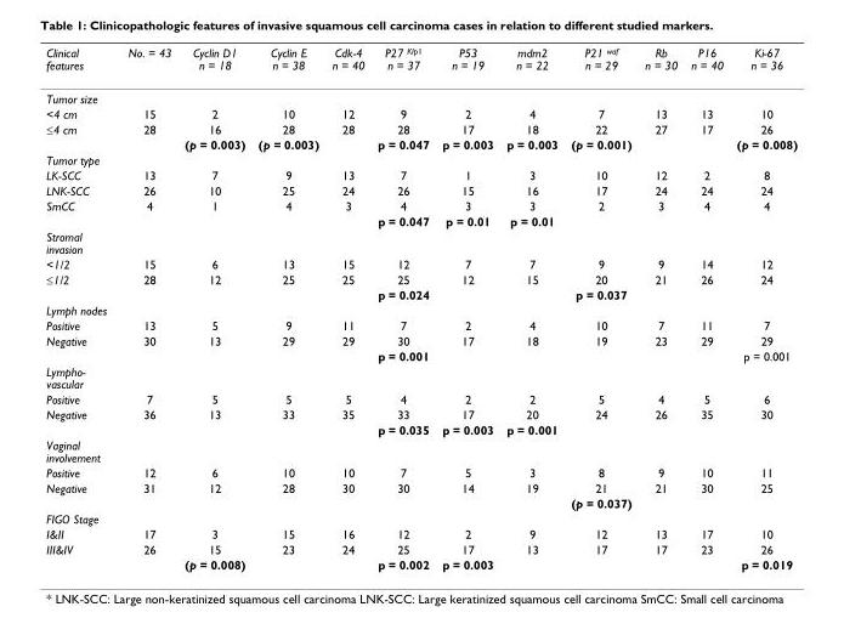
<table><thead><tr><td>Clinical features</td><td>No. = 43</td><td>Cyclin D1 n = 18</td><td>Cyclin E n = 38</td><td>Cdk-4 n = 40</td><td>P27 KIp1 n = 37</td><td>P53 n = 19</td><td>mdm2 n = 22</td><td>P21 waf n = 29</td><td>Rb n = 30</td><td>P16 n = 40</td><td>Ki-67 n = 36</td></tr></thead><tbody><tr><td colspan="12">Tumor size</td></tr><tr><td>&lt;4 cm</td><td>15</td><td>2</td><td>10</td><td>12</td><td>9</td><td>2</td><td>4</td><td>7</td><td>13</td><td>13</td><td>10</td></tr><tr><td rowspan="2">≤4 cm</td><td>28</td><td>16</td><td>28</td><td>28</td><td>28</td><td>17</td><td>18</td><td>22</td><td>27</td><td>17</td><td>26</td></tr><tr><td></td><td>(p = 0.003)</td><td>(p = 0.003)</td><td></td><td>p = 0.047</td><td>p = 0.003</td><td>p = 0.003</td><td>(p = 0.001)</td><td></td><td></td><td>(p = 0.008)</td></tr><tr><td colspan="12">Tumor type</td></tr><tr><td>LK-SCC</td><td>13</td><td>7</td><td>9</td><td>13</td><td>7</td><td>1</td><td>3</td><td>10</td><td>12</td><td>2</td><td>8</td></tr><tr><td>LNK-SCC</td><td>26</td><td>10</td><td>25</td><td>24</td><td>26</td><td>15</td><td>16</td><td>17</td><td>24</td><td>24</td><td>24</td></tr><tr><td rowspan="2">SmCC</td><td>4</td><td>1</td><td>4</td><td>3</td><td>4</td><td>3</td><td>3</td><td>2</td><td>3</td><td>4</td><td>4</td></tr><tr><td></td><td></td><td></td><td></td><td>p = 0.047</td><td>p = 0.01</td><td>p = 0.01</td><td></td><td></td><td></td><td></td></tr><tr><td colspan="12">Stromal invasion</td></tr><tr><td>&lt;1/2</td><td>15</td><td>6</td><td>13</td><td>15</td><td>12</td><td>7</td><td>7</td><td>9</td><td>9</td><td>14</td><td>12</td></tr><tr><td rowspan="2">≤1/2</td><td>28</td><td>12</td><td>25</td><td>25</td><td>25</td><td>12</td><td>15</td><td>20</td><td>21</td><td>26</td><td>24</td></tr><tr><td></td><td></td><td></td><td></td><td>p = 0.024</td><td></td><td></td><td>p = 0.037</td><td></td><td></td><td></td></tr><tr><td colspan="12">Lymph nodes</td></tr><tr><td>Positive</td><td>13</td><td>5</td><td>9</td><td>11</td><td>7</td><td>2</td><td>4</td><td>10</td><td>7</td><td>11</td><td>7</td></tr><tr><td rowspan="2">Negative</td><td>30</td><td>13</td><td>29</td><td>29</td><td>30</td><td>17</td><td>18</td><td>19</td><td>23</td><td>29</td><td>29</td></tr><tr><td></td><td></td><td></td><td></td><td>p = 0.001</td><td></td><td></td><td></td><td></td><td></td><td>p = 0.001</td></tr><tr><td colspan="12">Lympho- vascular</td></tr><tr><td>Positive</td><td>7</td><td>5</td><td>5</td><td>5</td><td>4</td><td>2</td><td>2</td><td>5</td><td>4</td><td>5</td><td>6</td></tr><tr><td rowspan="2">Negative</td><td>36</td><td>13</td><td>33</td><td>35</td><td>33</td><td>17</td><td>20</td><td>24</td><td>26</td><td>35</td><td>30</td></tr><tr><td></td><td></td><td></td><td></td><td>p = 0.035</td><td>p = 0.003</td><td>p = 0.001</td><td></td><td></td><td></td><td></td></tr><tr><td colspan="12">Vaginal involvement</td></tr><tr><td>Positive</td><td>12</td><td>6</td><td>10</td><td>10</td><td>7</td><td>5</td><td>3</td><td>8</td><td>9</td><td>10</td><td>11</td></tr><tr><td rowspan="2">Negative</td><td>31</td><td>12</td><td>28</td><td>30</td><td>30</td><td>14</td><td>19</td><td>21</td><td>21</td><td>30</td><td>25</td></tr><tr><td></td><td></td><td></td><td></td><td></td><td></td><td></td><td>(p = 0.037)</td><td></td><td></td><td></td></tr><tr><td colspan="12">FIGO Stage</td></tr><tr><td>I&amp;II</td><td>17</td><td>3</td><td>15</td><td>16</td><td>12</td><td>2</td><td>9</td><td>12</td><td>13</td><td>17</td><td>10</td></tr><tr><td rowspan="2">III&amp;IV</td><td>26</td><td>15</td><td>23</td><td>24</td><td>25</td><td>17</td><td>13</td><td>17</td><td>17</td><td>23</td><td>26</td></tr><tr><td></td><td>(p = 0.008)</td><td></td><td></td><td>p = 0.002</td><td>p = 0.003</td><td></td><td></td><td></td><td></td><td>p = 0.019</td></tr></tbody></table>